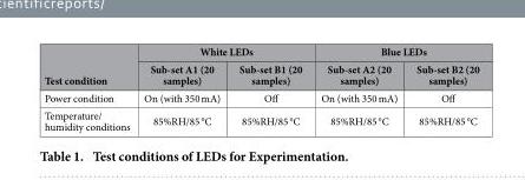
<table><thead><tr><td rowspan="2">Test condition</td><td colspan="2">White LEDs</td><td colspan="2">Blue LEDs</td></tr><tr><td>Sub-set A1 (20 samples)</td><td>Sub-set B1 (20 samples)</td><td>Sub-set A2 (20 samples)</td><td>Sub-set B2 (20 samples)</td></tr></thead><tbody><tr><td>Power condition</td><td>On (with 350 mA)</td><td>Off</td><td>On (with 350 mA)</td><td>Off</td></tr><tr><td>Temperature/ humidity conditions</td><td>85%RH/85 °C</td><td>85%RH/85 °C</td><td>85%RH/85 °C</td><td>85%RH/85 °C</td></tr></tbody></table>